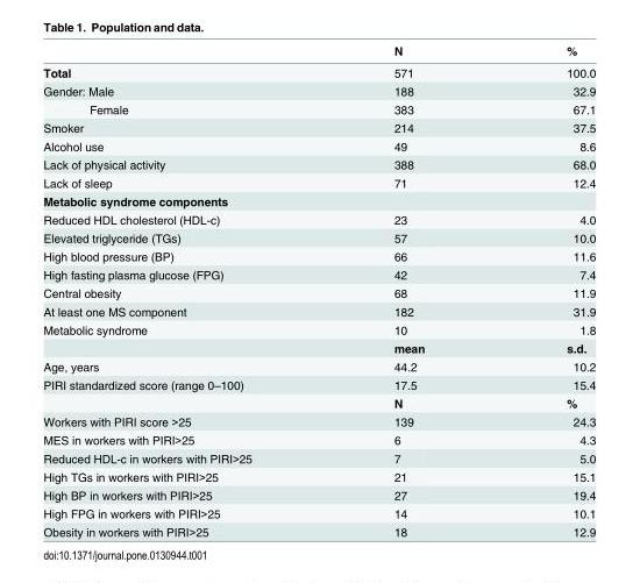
<table><thead><tr><td></td><td>N</td><td>%</td></tr></thead><tbody><tr><td>Total</td><td>571</td><td>100.0</td></tr><tr><td>Gender: Male</td><td>188</td><td>32.9</td></tr><tr><td>Female</td><td>383</td><td>67.1</td></tr><tr><td>Smoker</td><td>214</td><td>37.5</td></tr><tr><td>Alcohol use</td><td>49</td><td>8.6</td></tr><tr><td>Lack of physical activity</td><td>388</td><td>68.0</td></tr><tr><td>Lack of sleep</td><td>71</td><td>12.4</td></tr><tr><td colspan="3">Metabolic syndrome components</td></tr><tr><td>Reduced HDL cholesterol (HDL-c)</td><td>23</td><td>4.0</td></tr><tr><td>Elevated triglyceride (TGs)</td><td>57</td><td>10.0</td></tr><tr><td>High blood pressure (BP)</td><td>66</td><td>11.6</td></tr><tr><td>High fasting plasma glucose (FPG)</td><td>42</td><td>7.4</td></tr><tr><td>Central obesity</td><td>68</td><td>11.9</td></tr><tr><td>At least one MS component</td><td>182</td><td>31.9</td></tr><tr><td rowspan="2">Metabolic syndrome</td><td>10</td><td>1.8</td></tr><tr><td>mean</td><td>s.d.</td></tr><tr><td>Age, years</td><td>44.2</td><td>10.2</td></tr><tr><td rowspan="2">PIRI standardized score (range 0–100)</td><td>17.5</td><td>15.4</td></tr><tr><td>N</td><td>%</td></tr><tr><td>Workers with PIRI score &gt;25</td><td>139</td><td>24.3</td></tr><tr><td>MES in workers with PIRI&gt;25</td><td>6</td><td>4.3</td></tr><tr><td>Reduced HDL-c in workers with PIRI&gt;25</td><td>7</td><td>5.0</td></tr><tr><td>High TGs in workers with PIRI&gt;25</td><td>21</td><td>15.1</td></tr><tr><td>High BP in workers with PIRI&gt;25</td><td>27</td><td>19.4</td></tr><tr><td>High FPG in workers with PIRI&gt;25</td><td>14</td><td>10.1</td></tr><tr><td>Obesity in workers with PIRI&gt;25</td><td>18</td><td>12.9</td></tr></tbody></table>